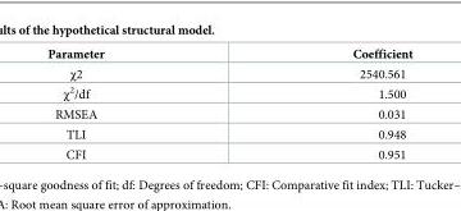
<table><thead><tr><td>Parameter</td><td>Coefficient</td></tr></thead><tbody><tr><td>χ2</td><td>2540.561</td></tr><tr><td>χ<sup>2</sup>/df</td><td>1.500</td></tr><tr><td>RMSEA</td><td>0.031</td></tr><tr><td>TLI</td><td>0.948</td></tr><tr><td>CFI</td><td>0.951</td></tr></tbody></table>